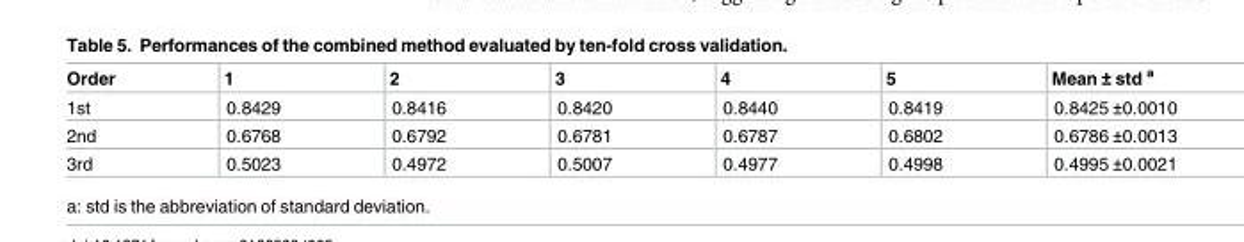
<table><thead><tr><td>Order</td><td>1</td><td>2</td><td>3</td><td>4</td><td>5</td><td>Mean ± std <sup>a</sup></td></tr></thead><tbody><tr><td>1st</td><td>0.8429</td><td>0.8416</td><td>0.8420</td><td>0.8440</td><td>0.8419</td><td>0.8425 ±0.0010</td></tr><tr><td>2nd</td><td>0.6768</td><td>0.6792</td><td>0.6781</td><td>0.6787</td><td>0.6802</td><td>0.6786 ±0.0013</td></tr><tr><td>3rd</td><td>0.5023</td><td>0.4972</td><td>0.5007</td><td>0.4977</td><td>0.4998</td><td>0.4995 ±0.0021</td></tr></tbody></table>